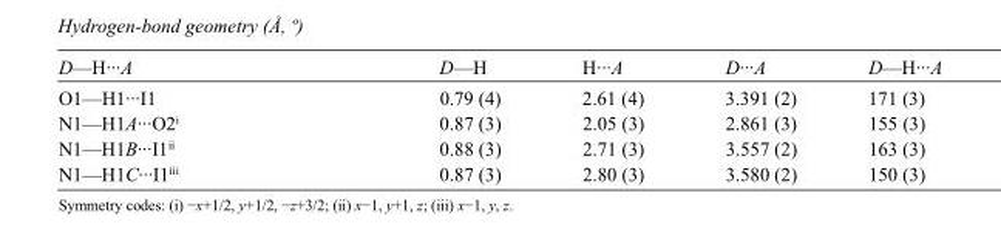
<table><tbody><tr><td>D—H···A</td><td>D—H</td><td>H···A</td><td>D···A</td><td>D—H···A</td></tr><tr><td>O1—H1···I1</td><td>0.79 (4)</td><td>2.61 (4)</td><td>3.391 (2)</td><td>171 (3)</td></tr><tr><td>N1—H1A···O2<sup>i</sup></td><td>0.87 (3)</td><td>2.05 (3)</td><td>2.861 (3)</td><td>155 (3)</td></tr><tr><td>N1—H1B···I1<sup>ii</sup></td><td>0.88 (3)</td><td>2.71 (3)</td><td>3.557 (2)</td><td>163 (3)</td></tr><tr><td>N1—H1C···I1<sup>iii</sup></td><td>0.87 (3)</td><td>2.80 (3)</td><td>3.580 (2)</td><td>150 (3)</td></tr></tbody></table>